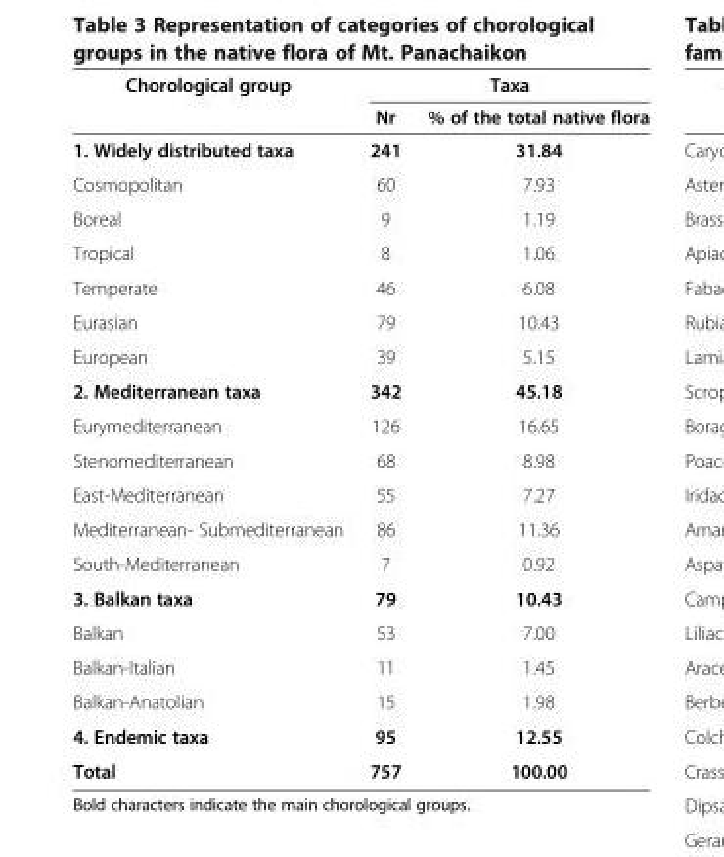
<table><thead><tr><td rowspan="2">Chorological group</td><td colspan="2">Taxa</td></tr><tr><td>Nr</td><td>% of the total native flora</td></tr></thead><tbody><tr><td>1. Widely distributed taxa</td><td>241</td><td>31.84</td></tr><tr><td>Cosmopolitan</td><td>60</td><td>7.93</td></tr><tr><td>Boreal</td><td>9</td><td>1.19</td></tr><tr><td>Tropical</td><td>8</td><td>1.06</td></tr><tr><td>Temperate</td><td>46</td><td>6.08</td></tr><tr><td>Eurasian</td><td>79</td><td>10.43</td></tr><tr><td>European</td><td>39</td><td>5.15</td></tr><tr><td>2. Mediterranean taxa</td><td>342</td><td>45.18</td></tr><tr><td>Eurymediterranean</td><td>126</td><td>16.65</td></tr><tr><td>Stenomediterranean</td><td>68</td><td>8.98</td></tr><tr><td>East-Mediterranean</td><td>55</td><td>7.27</td></tr><tr><td>Mediterranean- Submediterranean</td><td>86</td><td>11.36</td></tr><tr><td>South-Mediterranean</td><td>7</td><td>0.92</td></tr><tr><td>3. Balkan taxa</td><td>79</td><td>10.43</td></tr><tr><td>Balkan</td><td>53</td><td>7.00</td></tr><tr><td>Balkan-Italian</td><td>11</td><td>1.45</td></tr><tr><td>Balkan-Anatolian</td><td>15</td><td>1.98</td></tr><tr><td>4. Endemic taxa</td><td>95</td><td>12.55</td></tr><tr><td>Total</td><td>757</td><td>100.00</td></tr></tbody></table>